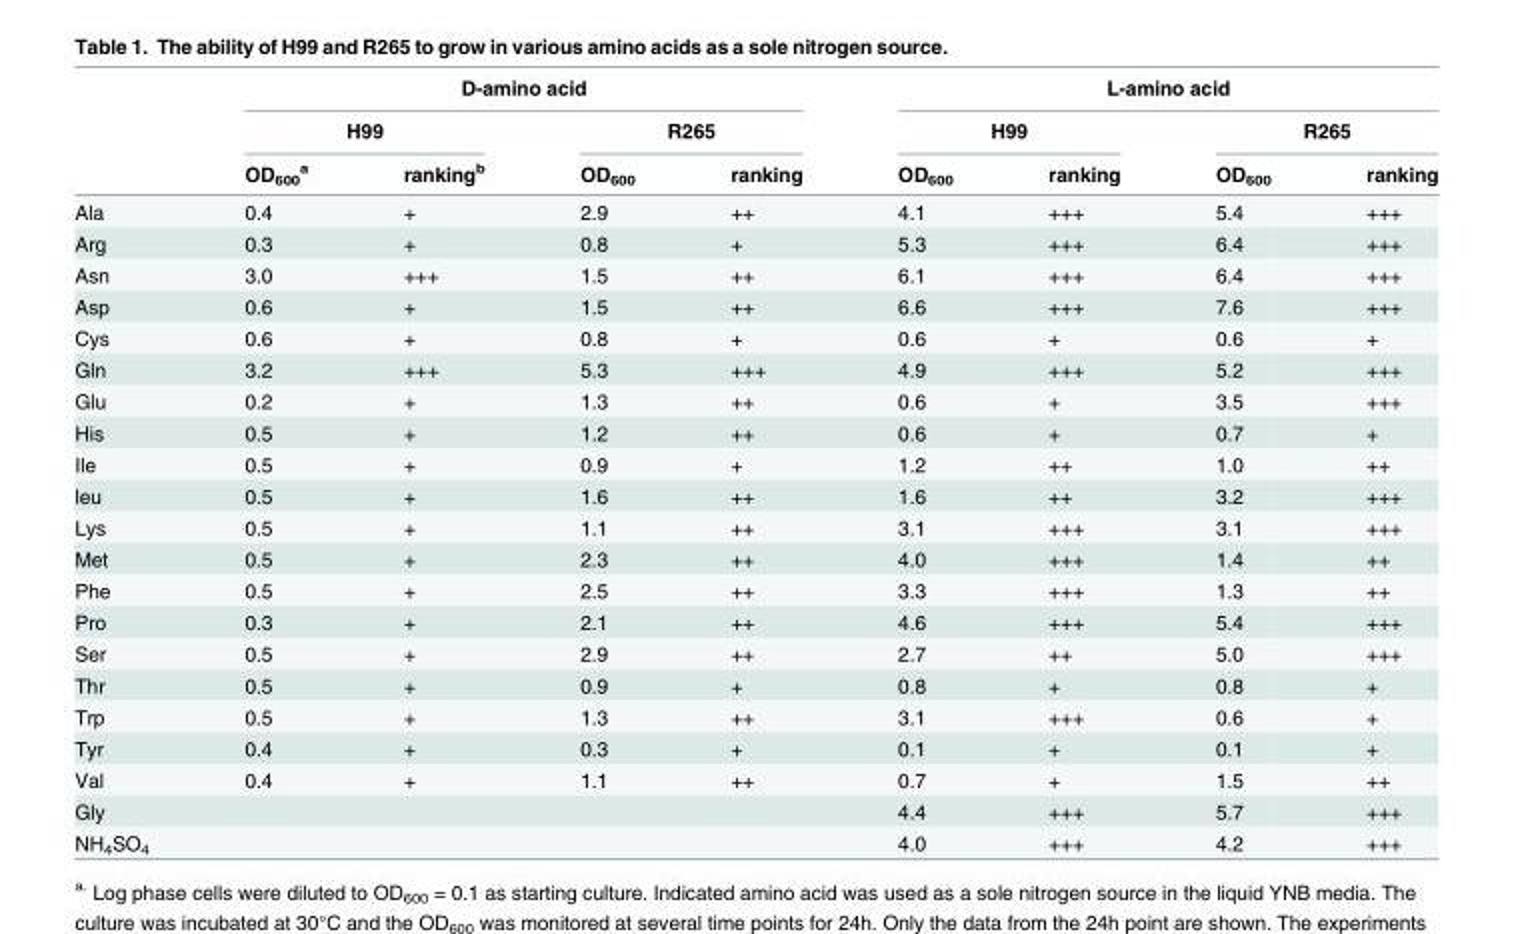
<table><thead><tr><td rowspan="3"></td><td colspan="4">D-amino acid</td><td colspan="4">L-amino acid</td></tr><tr><td colspan="2">H99</td><td colspan="2">R265</td><td colspan="2">H99</td><td colspan="2">R265</td></tr><tr><td>OD<sub>600</sub> <sup>a</sup></td><td>ranking<sup>b</sup></td><td>OD<sub>600</sub></td><td>ranking</td><td>OD<sub>600</sub></td><td>ranking</td><td>OD<sub>600</sub></td><td>ranking</td></tr></thead><tbody><tr><td>Ala</td><td>0.4</td><td>+</td><td>2.9</td><td>++</td><td>4.1</td><td>+++</td><td>5.4</td><td>+++</td></tr><tr><td>Arg</td><td>0.3</td><td>+</td><td>0.8</td><td>+</td><td>5.3</td><td>+++</td><td>6.4</td><td>+++</td></tr><tr><td>Asn</td><td>3.0</td><td>+++</td><td>1.5</td><td>++</td><td>6.1</td><td>+++</td><td>6.4</td><td>+++</td></tr><tr><td>Asp</td><td>0.6</td><td>+</td><td>1.5</td><td>++</td><td>6.6</td><td>+++</td><td>7.6</td><td>+++</td></tr><tr><td>Cys</td><td>0.6</td><td>+</td><td>0.8</td><td>+</td><td>0.6</td><td>+</td><td>0.6</td><td>+</td></tr><tr><td>Gln</td><td>3.2</td><td>+++</td><td>5.3</td><td>+++</td><td>4.9</td><td>+++</td><td>5.2</td><td>+++</td></tr><tr><td>Glu</td><td>0.2</td><td>+</td><td>1.3</td><td>++</td><td>0.6</td><td>+</td><td>3.5</td><td>+++</td></tr><tr><td>His</td><td>0.5</td><td>+</td><td>1.2</td><td>++</td><td>0.6</td><td>+</td><td>0.7</td><td>+</td></tr><tr><td>Ile</td><td>0.5</td><td>+</td><td>0.9</td><td>+</td><td>1.2</td><td>++</td><td>1.0</td><td>++</td></tr><tr><td>leu</td><td>0.5</td><td>+</td><td>1.6</td><td>++</td><td>1.6</td><td>++</td><td>3.2</td><td>+++</td></tr><tr><td>Lys</td><td>0.5</td><td>+</td><td>1.1</td><td>++</td><td>3.1</td><td>+++</td><td>3.1</td><td>+++</td></tr><tr><td>Met</td><td>0.5</td><td>+</td><td>2.3</td><td>++</td><td>4.0</td><td>+++</td><td>1.4</td><td>++</td></tr><tr><td>Phe</td><td>0.5</td><td>+</td><td>2.5</td><td>++</td><td>3.3</td><td>+++</td><td>1.3</td><td>++</td></tr><tr><td>Pro</td><td>0.3</td><td>+</td><td>2.1</td><td>++</td><td>4.6</td><td>+++</td><td>5.4</td><td>+++</td></tr><tr><td>Ser</td><td>0.5</td><td>+</td><td>2.9</td><td>++</td><td>2.7</td><td>++</td><td>5.0</td><td>+++</td></tr><tr><td>Thr</td><td>0.5</td><td>+</td><td>0.9</td><td>+</td><td>0.8</td><td>+</td><td>0.8</td><td>+</td></tr><tr><td>Trp</td><td>0.5</td><td>+</td><td>1.3</td><td>++</td><td>3.1</td><td>+++</td><td>0.6</td><td>+</td></tr><tr><td>Tyr</td><td>0.4</td><td>+</td><td>0.3</td><td>+</td><td>0.1</td><td>+</td><td>0.1</td><td>+</td></tr><tr><td>Val</td><td>0.4</td><td>+</td><td>1.1</td><td>++</td><td>0.7</td><td>+</td><td>1.5</td><td>++</td></tr><tr><td>Gly</td><td></td><td></td><td></td><td></td><td>4.4</td><td>+++</td><td>5.7</td><td>+++</td></tr><tr><td>NH<sub>4</sub>SO<sub>4</sub></td><td></td><td></td><td></td><td></td><td>4.0</td><td>+++</td><td>4.2</td><td>+++</td></tr></tbody></table>